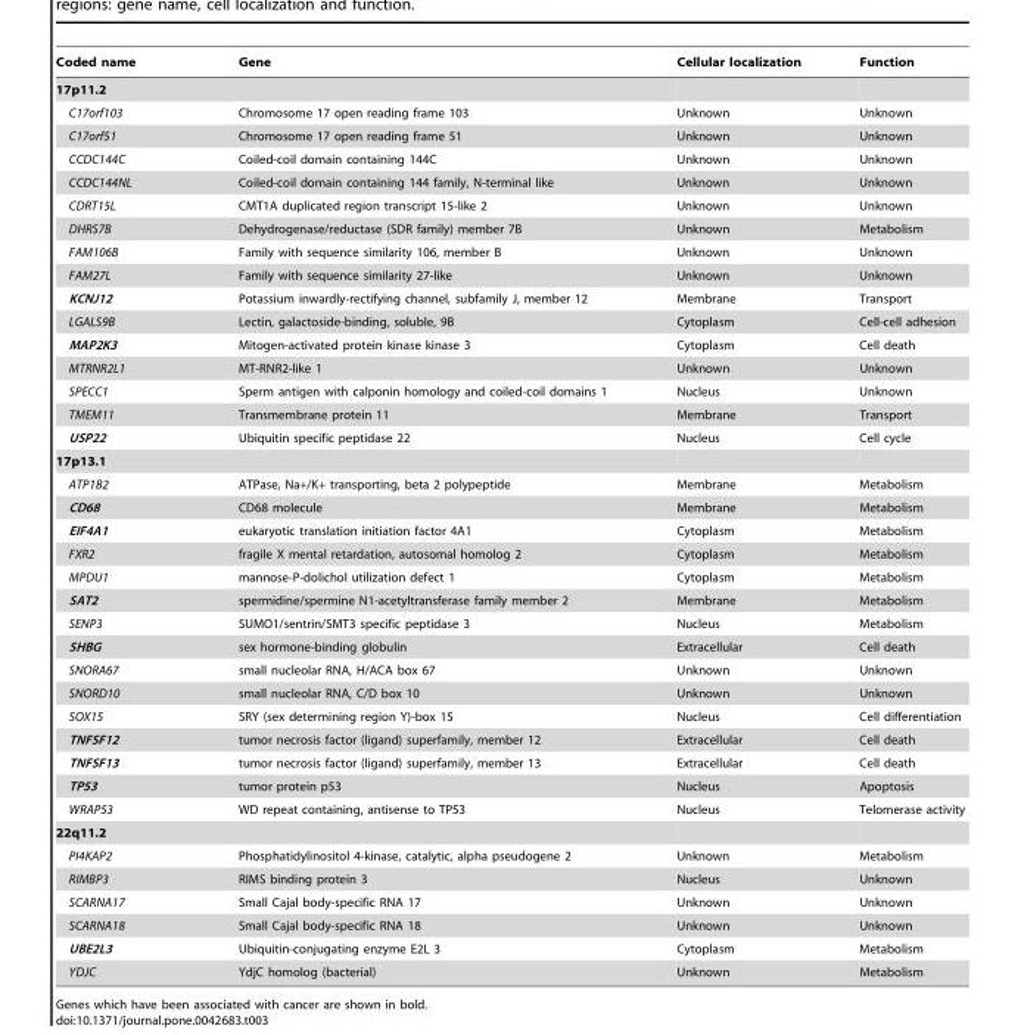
<table><thead><tr><td>Coded name</td><td>Gene</td><td>Cellular localization</td><td>Function</td></tr></thead><tbody><tr><td colspan="4">17p11.2</td></tr><tr><td>C17orf103</td><td>Chromosome 17 open reading frame 103</td><td>Unknown</td><td>Unknown</td></tr><tr><td>C17orf51</td><td>Chromosome 17 open reading frame 51</td><td>Unknown</td><td>Unknown</td></tr><tr><td>CCDC144C</td><td>Coiled-coil domain containing 144C</td><td>Unknown</td><td>Unknown</td></tr><tr><td>CCDC144NL</td><td>Coiled-coil domain containing 144 family, N-terminal like</td><td>Unknown</td><td>Unknown</td></tr><tr><td>CDRT15L</td><td>CMT1A duplicated region transcript 15-like 2</td><td>Unknown</td><td>Unknown</td></tr><tr><td>DHRS7B</td><td>Dehydrogenase/reductase (SDR family) member 7B</td><td>Unknown</td><td>Metabolism</td></tr><tr><td>FAM106B</td><td>Family with sequence similarity 106, member B</td><td>Unknown</td><td>Unknown</td></tr><tr><td>FAM27L</td><td>Family with sequence similarity 27-like</td><td>Unknown</td><td>Unknown</td></tr><tr><td>KCNJ12</td><td>Potassium inwardly-rectifying channel, subfamily J, member 12</td><td>Membrane</td><td>Transport</td></tr><tr><td>LGALS9B</td><td>Lectin, galactoside-binding, soluble, 9B</td><td>Cytoplasm</td><td>Cell-cell adhesion</td></tr><tr><td>MAP2K3</td><td>Mitogen-activated protein kinase kinase 3</td><td>Cytoplasm</td><td>Cell death</td></tr><tr><td>MTRNR2L1</td><td>MT-RNR2-like 1</td><td>Unknown</td><td>Unknown</td></tr><tr><td>SPECC1</td><td>Sperm antigen with calponin homology and coiled-coil domains 1</td><td>Nucleus</td><td>Unknown</td></tr><tr><td>TMEM11</td><td>Transmembrane protein 11</td><td>Membrane</td><td>Transport</td></tr><tr><td>USP22</td><td>Ubiquitin specific peptidase 22</td><td>Nucleus</td><td>Cell cycle</td></tr><tr><td colspan="4">17p13.1</td></tr><tr><td>ATP1B2</td><td>ATPase, Na+/K+ transporting, beta 2 polypeptide</td><td>Membrane</td><td>Metabolism</td></tr><tr><td>CD68</td><td>CD68 molecule</td><td>Membrane</td><td>Metabolism</td></tr><tr><td>EIF4A1</td><td>eukaryotic translation initiation factor 4A1</td><td>Cytoplasm</td><td>Metabolism</td></tr><tr><td>FXR2</td><td>fragile X mental retardation, autosomal homolog 2</td><td>Cytoplasm</td><td>Metabolism</td></tr><tr><td>MPDU1</td><td>mannose-P-dolichol utilization defect 1</td><td>Cytoplasm</td><td>Metabolism</td></tr><tr><td>SAT2</td><td>spermidine/spermine N1-acetyltransferase family member 2</td><td>Membrane</td><td>Metabolism</td></tr><tr><td>SENP3</td><td>SUMO1/sentrin/SMT3 specific peptidase 3</td><td>Nucleus</td><td>Metabolism</td></tr><tr><td>SHBG</td><td>sex hormone-binding globulin</td><td>Extracellular</td><td>Cell death</td></tr><tr><td>SNORA67</td><td>small nucleolar RNA, H/ACA box 67</td><td>Unknown</td><td>Unknown</td></tr><tr><td>SNORD10</td><td>small nucleolar RNA, C/D box 10</td><td>Unknown</td><td>Unknown</td></tr><tr><td>SOX15</td><td>SRY (sex determining region Y)-box 15</td><td>Nucleus</td><td>Cell differentiation</td></tr><tr><td>TNFSF12</td><td>tumor necrosis factor (ligand) superfamily, member 12</td><td>Extracellular</td><td>Cell death</td></tr><tr><td>TNFSF13</td><td>tumor necrosis factor (ligand) superfamily, member 13</td><td>Extracellular</td><td>Cell death</td></tr><tr><td>TP53</td><td>tumor protein p53</td><td>Nucleus</td><td>Apoptosis</td></tr><tr><td>WRAP53</td><td>WD repeat containing, antisense to TP53</td><td>Nucleus</td><td>Telomerase activity</td></tr><tr><td colspan="4">22q11.2</td></tr><tr><td>PI4KAP2</td><td>Phosphatidylinositol 4-kinase, catalytic, alpha pseudogene 2</td><td>Unknown</td><td>Metabolism</td></tr><tr><td>RIMBP3</td><td>RIMS binding protein 3</td><td>Nucleus</td><td>Unknown</td></tr><tr><td>SCARNA17</td><td>Small Cajal body-specific RNA 17</td><td>Unknown</td><td>Unknown</td></tr><tr><td>SCARNA18</td><td>Small Cajal body-specific RNA 18</td><td>Unknown</td><td>Unknown</td></tr><tr><td>UBE2L3</td><td>Ubiquitin-conjugating enzyme E2L 3</td><td>Cytoplasm</td><td>Metabolism</td></tr><tr><td>YDJC</td><td>YdjC homolog (bacterial)</td><td>Unknown</td><td>Metabolism</td></tr></tbody></table>